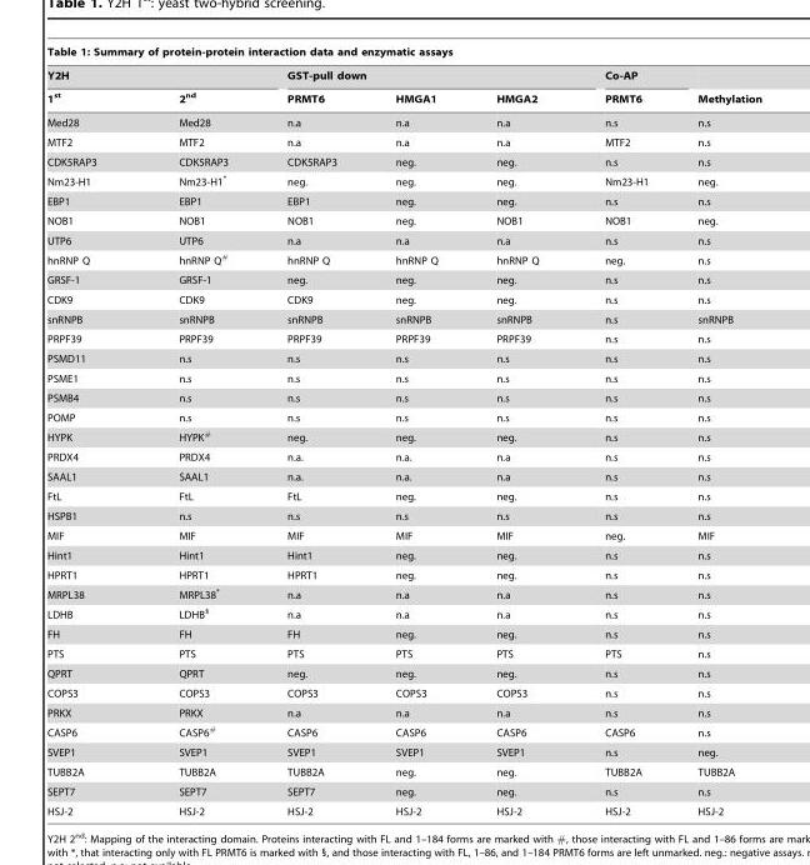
<table><thead><tr><td colspan="7">Table 1: Summary of protein-protein interaction data and enzymatic assays</td></tr><tr><td colspan="2">Y2H</td><td colspan="3">GST-pull down</td><td rowspan="2">Co-AP PRMT6</td><td rowspan="2">Methylation</td></tr><tr><td>1<sup>st</sup></td><td>2<sup>nd</sup></td><td>PRMT6</td><td>HMGA1</td><td>HMGA2</td></tr></thead><tbody><tr><td>Med28</td><td>Med28</td><td>n.a</td><td>n.a</td><td>n.a</td><td>n.s</td><td>n.s</td></tr><tr><td>MTF2</td><td>MTF2</td><td>n.a</td><td>n.a</td><td>n.a</td><td>MTF2</td><td>n.s</td></tr><tr><td>CDK5RAP3</td><td>CDK5RAP3</td><td>CDK5RAP3</td><td>neg.</td><td>neg.</td><td>n.s</td><td>n.s</td></tr><tr><td>Nm23-H1</td><td>Nm23-H1*</td><td>neg.</td><td>neg.</td><td>neg.</td><td>Nm23-H1</td><td>neg.</td></tr><tr><td>EBP1</td><td>EBP1</td><td>EBP1</td><td>neg.</td><td>neg.</td><td>n.s</td><td>n.s</td></tr><tr><td>NOB1</td><td>NOB1</td><td>NOB1</td><td>neg.</td><td>NOB1</td><td>NOB1</td><td>neg.</td></tr><tr><td>UTP6</td><td>UTP6</td><td>n.a</td><td>n.a</td><td>n.a</td><td>n.s</td><td>n.s</td></tr><tr><td>hnRNP Q</td><td>hnRNP Q<sup>#</sup></td><td>hnRNP Q</td><td>hnRNP Q</td><td>hnRNP Q</td><td>neg.</td><td>n.s</td></tr><tr><td>GRSF-1</td><td>GRSF-1</td><td>neg.</td><td>neg.</td><td>neg.</td><td>n.s</td><td>n.s</td></tr><tr><td>CDK9</td><td>CDK9</td><td>CDK9</td><td>neg.</td><td>neg.</td><td>n.s</td><td>n.s</td></tr><tr><td>snRNPB</td><td>snRNPB</td><td>snRNPB</td><td>snRNPB</td><td>snRNPB</td><td>n.s</td><td>snRNPB</td></tr><tr><td>PRPF39</td><td>PRPF39</td><td>PRPF39</td><td>PRPF39</td><td>PRPF39</td><td>n.s</td><td>n.s</td></tr><tr><td>PSMD11</td><td>n.s</td><td>n.s</td><td>n.s</td><td>n.s</td><td>n.s</td><td>n.s</td></tr><tr><td>PSME1</td><td>n.s</td><td>n.s</td><td>n.s</td><td>n.s</td><td>n.s</td><td>n.s</td></tr><tr><td>PSMB4</td><td>n.s</td><td>n.s</td><td>n.s</td><td>n.s</td><td>n.s</td><td>n.s</td></tr><tr><td>POMP</td><td>n.s</td><td>n.s</td><td>n.s</td><td>n.s</td><td>n.s</td><td>n.s</td></tr><tr><td>HYPK</td><td>HYPK<sup>#</sup></td><td>neg.</td><td>neg.</td><td>neg.</td><td>n.s</td><td>n.s</td></tr><tr><td>PRDX4</td><td>PRDX4</td><td>n.a.</td><td>n.a.</td><td>n.a</td><td>n.s</td><td>n.s</td></tr><tr><td>SAAL1</td><td>SAAL1</td><td>n.a.</td><td>n.a.</td><td>n.a</td><td>n.s</td><td>n.s</td></tr><tr><td>FtL</td><td>FtL</td><td>FtL</td><td>neg.</td><td>neg.</td><td>n.s</td><td>n.s</td></tr><tr><td>HSPB1</td><td>n.s</td><td>n.s</td><td>n.s</td><td>n.s</td><td>n.s</td><td>n.s</td></tr><tr><td>MIF</td><td>MIF</td><td>MIF</td><td>MIF</td><td>MIF</td><td>neg.</td><td>MIF</td></tr><tr><td>Hint1</td><td>Hint1</td><td>Hint1</td><td>neg.</td><td>neg.</td><td>n.s</td><td>n.s</td></tr><tr><td>HPRT1</td><td>HPRT1</td><td>HPRT1</td><td>neg.</td><td>neg.</td><td>n.s</td><td>n.s</td></tr><tr><td>MRPL38</td><td>MRPL38*</td><td>n.a</td><td>n.a</td><td>n.a</td><td>n.s</td><td>n.s</td></tr><tr><td>LDHB</td><td>LDHB<sup>§</sup></td><td>n.a</td><td>n.a</td><td>n.a</td><td>n.s</td><td>n.s</td></tr><tr><td>FH</td><td>FH</td><td>FH</td><td>neg.</td><td>neg.</td><td>n.s</td><td>n.s</td></tr><tr><td>PTS</td><td>PTS</td><td>PTS</td><td>PTS</td><td>PTS</td><td>PTS</td><td>n.s</td></tr><tr><td>QPRT</td><td>QPRT</td><td>neg.</td><td>neg.</td><td>neg.</td><td>n.s</td><td>n.s</td></tr><tr><td>COPS3</td><td>COPS3</td><td>COPS3</td><td>COPS3</td><td>COPS3</td><td>n.s</td><td>n.s</td></tr><tr><td>PRKX</td><td>PRKX</td><td>n.a</td><td>n.a</td><td>n.a</td><td>n.s</td><td>n.s</td></tr><tr><td>CASP6</td><td>CASP6<sup>#</sup></td><td>CASP6</td><td>CASP6</td><td>CASP6</td><td>CASP6</td><td>n.s</td></tr><tr><td>SVEP1</td><td>SVEP1</td><td>SVEP1</td><td>SVEP1</td><td>SVEP1</td><td>n.s</td><td>neg.</td></tr><tr><td>TUBB2A</td><td>TUBB2A</td><td>TUBB2A</td><td>neg.</td><td>neg.</td><td>TUBB2A</td><td>TUBB2A</td></tr><tr><td>SEPT7</td><td>SEPT7</td><td>SEPT7</td><td>neg.</td><td>neg.</td><td>n.s</td><td>n.s</td></tr><tr><td>HSJ-2</td><td>HSJ-2</td><td>HSJ-2</td><td>HSJ-2</td><td>HSJ-2</td><td>HSJ-2</td><td>HSJ-2</td></tr></tbody></table>